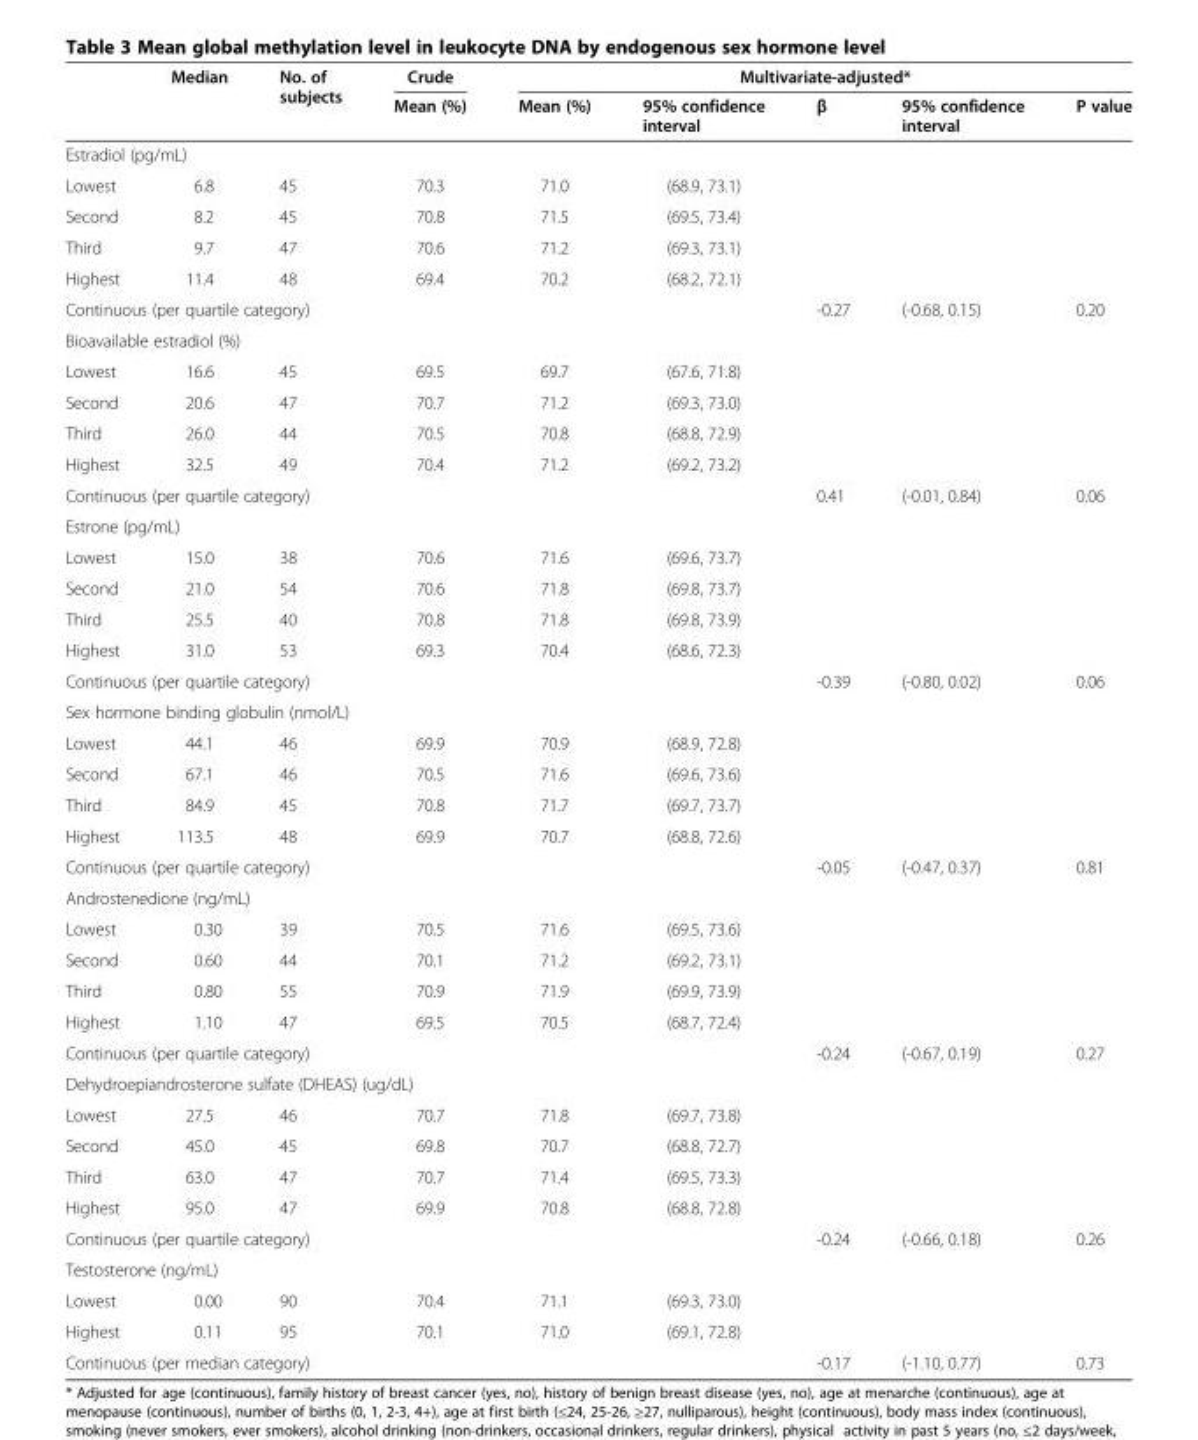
<table><thead><tr><td rowspan="2"></td><td rowspan="2">Median</td><td rowspan="2">No. of subjects</td><td rowspan="2">Crude Mean (%)</td><td colspan="5">Multivariate-adjusted*</td></tr><tr><td>Mean (%)</td><td>95% confidence interval</td><td>β</td><td>95% confidence interval</td><td>P value</td></tr></thead><tbody><tr><td colspan="9">Estradiol (pg/mL)</td></tr><tr><td>Lowest</td><td>6.8</td><td>45</td><td>70.3</td><td>71.0</td><td>(68.9, 73.1)</td><td></td><td></td><td></td></tr><tr><td>Second</td><td>8.2</td><td>45</td><td>70.8</td><td>71.5</td><td>(69.5, 73.4)</td><td></td><td></td><td></td></tr><tr><td>Third</td><td>9.7</td><td>47</td><td>70.6</td><td>71.2</td><td>(69.3, 73.1)</td><td></td><td></td><td></td></tr><tr><td>Highest</td><td>11.4</td><td>48</td><td>69.4</td><td>70.2</td><td>(68.2, 72.1)</td><td></td><td></td><td></td></tr><tr><td colspan="6">Continuous (per quartile category)</td><td>-0.27</td><td>(-0.68, 0.15)</td><td>0.20</td></tr><tr><td colspan="9">Bioavailable estradiol (%)</td></tr><tr><td>Lowest</td><td>16.6</td><td>45</td><td>69.5</td><td>69.7</td><td>(67.6, 71.8)</td><td></td><td></td><td></td></tr><tr><td>Second</td><td>20.6</td><td>47</td><td>70.7</td><td>71.2</td><td>(69.3, 73.0)</td><td></td><td></td><td></td></tr><tr><td>Third</td><td>26.0</td><td>44</td><td>70.5</td><td>70.8</td><td>(68.8, 72.9)</td><td></td><td></td><td></td></tr><tr><td>Highest</td><td>32.5</td><td>49</td><td>70.4</td><td>71.2</td><td>(69.2, 73.2)</td><td></td><td></td><td></td></tr><tr><td colspan="6">Continuous (per quartile category)</td><td>0.41</td><td>(-0.01, 0.84)</td><td>0.06</td></tr><tr><td colspan="9">Estrone (pg/mL)</td></tr><tr><td>Lowest</td><td>15.0</td><td>38</td><td>70.6</td><td>71.6</td><td>(69.6, 73.7)</td><td></td><td></td><td></td></tr><tr><td>Second</td><td>21.0</td><td>54</td><td>70.6</td><td>71.8</td><td>(69.8, 73.7)</td><td></td><td></td><td></td></tr><tr><td>Third</td><td>25.5</td><td>40</td><td>70.8</td><td>71.8</td><td>(69.8, 73.9)</td><td></td><td></td><td></td></tr><tr><td>Highest</td><td>31.0</td><td>53</td><td>69.3</td><td>70.4</td><td>(68.6, 72.3)</td><td></td><td></td><td></td></tr><tr><td colspan="6">Continuous (per quartile category)</td><td>-0.39</td><td>(-0.80, 0.02)</td><td>0.06</td></tr><tr><td colspan="9">Sex hormone binding globulin (nmol/L)</td></tr><tr><td>Lowest</td><td>44.1</td><td>46</td><td>69.9</td><td>70.9</td><td>(68.9, 72.8)</td><td></td><td></td><td></td></tr><tr><td>Second</td><td>67.1</td><td>46</td><td>70.5</td><td>71.6</td><td>(69.6, 73.6)</td><td></td><td></td><td></td></tr><tr><td>Third</td><td>84.9</td><td>45</td><td>70.8</td><td>71.7</td><td>(69.7, 73.7)</td><td></td><td></td><td></td></tr><tr><td>Highest</td><td>113.5</td><td>48</td><td>69.9</td><td>70.7</td><td>(68.8, 72.6)</td><td></td><td></td><td></td></tr><tr><td colspan="6">Continuous (per quartile category)</td><td>-0.05</td><td>(-0.47, 0.37)</td><td>0.81</td></tr><tr><td colspan="9">Androstenedione (ng/mL)</td></tr><tr><td>Lowest</td><td>0.30</td><td>39</td><td>70.5</td><td>71.6</td><td>(69.5, 73.6)</td><td></td><td></td><td></td></tr><tr><td>Second</td><td>0.60</td><td>44</td><td>70.1</td><td>71.2</td><td>(69.2, 73.1)</td><td></td><td></td><td></td></tr><tr><td>Third</td><td>0.80</td><td>55</td><td>70.9</td><td>71.9</td><td>(69.9, 73.9)</td><td></td><td></td><td></td></tr><tr><td>Highest</td><td>1.10</td><td>47</td><td>69.5</td><td>70.5</td><td>(68.7, 72.4)</td><td></td><td></td><td></td></tr><tr><td colspan="6">Continuous (per quartile category)</td><td>-0.24</td><td>(-0.67, 0.19)</td><td>0.27</td></tr><tr><td colspan="9">Dehydroepiandrosterone sulfate (DHEAS) (ug/dL)</td></tr><tr><td>Lowest</td><td>27.5</td><td>46</td><td>70.7</td><td>71.8</td><td>(69.7, 73.8)</td><td></td><td></td><td></td></tr><tr><td>Second</td><td>45.0</td><td>45</td><td>69.8</td><td>70.7</td><td>(68.8, 72.7)</td><td></td><td></td><td></td></tr><tr><td>Third</td><td>63.0</td><td>47</td><td>70.7</td><td>71.4</td><td>(69.5, 73.3)</td><td></td><td></td><td></td></tr><tr><td>Highest</td><td>95.0</td><td>47</td><td>69.9</td><td>70.8</td><td>(68.8, 72.8)</td><td></td><td></td><td></td></tr><tr><td colspan="6">Continuous (per quartile category)</td><td>-0.24</td><td>(-0.66, 0.18)</td><td>0.26</td></tr><tr><td colspan="9">Testosterone (ng/mL)</td></tr><tr><td>Lowest</td><td>0.00</td><td>90</td><td>70.4</td><td>71.1</td><td>(69.3, 73.0)</td><td></td><td></td><td></td></tr><tr><td>Highest</td><td>0.11</td><td>95</td><td>70.1</td><td>71.0</td><td>(69.1, 72.8)</td><td></td><td></td><td></td></tr><tr><td colspan="6">Continuous (per median category)</td><td>-0.17</td><td>(-1.10, 0.77)</td><td>0.73</td></tr></tbody></table>